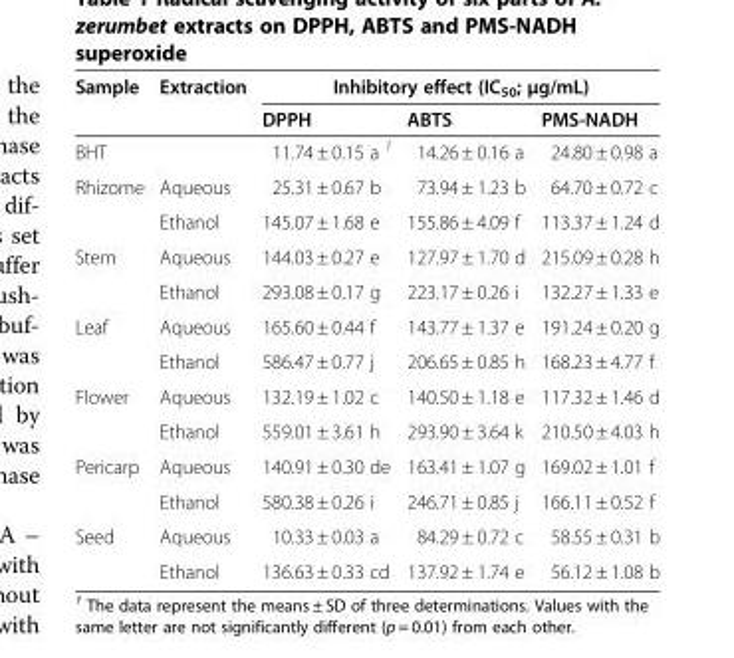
<table><thead><tr><td rowspan="2">Sample</td><td rowspan="2">Extraction</td><td colspan="3">Inhibitory effect (IC<sub>50</sub>; μg/mL)</td></tr><tr><td>DPPH</td><td>ABTS</td><td>PMS-NADH</td></tr></thead><tbody><tr><td>BHT</td><td></td><td>11.74 ± 0.15 a <sup>1</sup></td><td>14.26 ± 0.16 a</td><td>24.80 ± 0.98 a</td></tr><tr><td rowspan="2">Rhizome</td><td>Aqueous</td><td>25.31 ± 0.67 b</td><td>73.94 ± 1.23 b</td><td>64.70 ± 0.72 c</td></tr><tr><td>Ethanol</td><td>145.07 ± 1.68 e</td><td>155.86 ± 4.09 f</td><td>113.37 ± 1.24 d</td></tr><tr><td rowspan="2">Stem</td><td>Aqueous</td><td>144.03 ± 0.27 e</td><td>127.97 ± 1.70 d</td><td>215.09 ± 0.28 h</td></tr><tr><td>Ethanol</td><td>293.08 ± 0.17 g</td><td>223.17 ± 0.26 i</td><td>132.27 ± 1.33 e</td></tr><tr><td rowspan="2">Leaf</td><td>Aqueous</td><td>165.60 ± 0.44 f</td><td>143.77 ± 1.37 e</td><td>191.24 ± 0.20 g</td></tr><tr><td>Ethanol</td><td>586.47 ± 0.77 j</td><td>206.65 ± 0.85 h</td><td>168.23 ± 4.77 f</td></tr><tr><td rowspan="2">Flower</td><td>Aqueous</td><td>132.19 ± 1.02 c</td><td>140.50 ± 1.18 e</td><td>117.32 ± 1.46 d</td></tr><tr><td>Ethanol</td><td>559.01 ± 3.61 h</td><td>293.90 ± 3.64 k</td><td>210.50 ± 4.03 h</td></tr><tr><td rowspan="2">Pericarp</td><td>Aqueous</td><td>140.91 ± 0.30 de</td><td>163.41 ± 1.07 g</td><td>169.02 ± 1.01 f</td></tr><tr><td>Ethanol</td><td>580.38 ± 0.26 i</td><td>246.71 ± 0.85 j</td><td>166.11 ± 0.52 f</td></tr><tr><td rowspan="2">Seed</td><td>Aqueous</td><td>10.33 ± 0.03 a</td><td>84.29 ± 0.72 c</td><td>58.55 ± 0.31 b</td></tr><tr><td>Ethanol</td><td>136.63 ± 0.33 cd</td><td>137.92 ± 1.74 e</td><td>56.12 ± 1.08 b</td></tr></tbody></table>